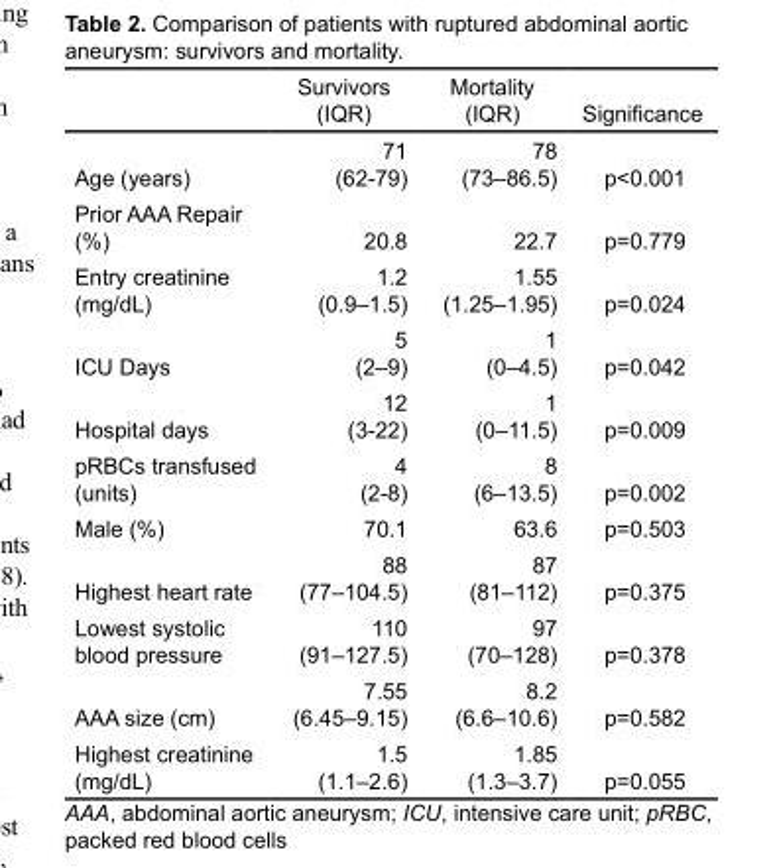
<table><thead><tr><td></td><td>Survivors (IQR)</td><td>Mortality (IQR)</td><td>Significance</td></tr></thead><tbody><tr><td>Age (years)</td><td>71 (62-79)</td><td>78 (73–86.5)</td><td>p&lt;0.001</td></tr><tr><td>Prior AAA Repair (%)</td><td>20.8</td><td>22.7</td><td>p=0.779</td></tr><tr><td>Entry creatinine (mg/dL)</td><td>1.2 (0.9–1.5)</td><td>1.55 (1.25–1.95)</td><td>p=0.024</td></tr><tr><td>ICU Days</td><td>5 (2–9)</td><td>1 (0–4.5)</td><td>p=0.042</td></tr><tr><td>Hospital days</td><td>12 (3-22)</td><td>1 (0–11.5)</td><td>p=0.009</td></tr><tr><td>pRBCs transfused (units)</td><td>4 (2-8)</td><td>8 (6–13.5)</td><td>p=0.002</td></tr><tr><td>Male (%)</td><td>70.1</td><td>63.6</td><td>p=0.503</td></tr><tr><td>Highest heart rate</td><td>88 (77–104.5)</td><td>87 (81–112)</td><td>p=0.375</td></tr><tr><td>Lowest systolic blood pressure</td><td>110 (91–127.5)</td><td>97 (70–128)</td><td>p=0.378</td></tr><tr><td>AAA size (cm)</td><td>7.55 (6.45–9.15)</td><td>8.2 (6.6–10.6)</td><td>p=0.582</td></tr><tr><td>Highest creatinine (mg/dL)</td><td>1.5 (1.1–2.6)</td><td>1.85 (1.3–3.7)</td><td>p=0.055</td></tr></tbody></table>